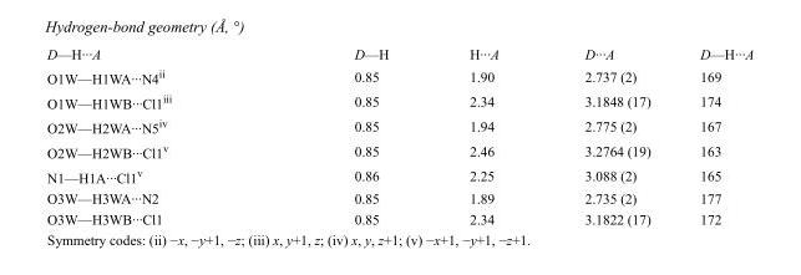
<table><tbody><tr><td>D—H···A</td><td>D—H</td><td>H···A</td><td>D···A</td><td>D—H···A</td></tr><tr><td>O1W—H1WA···N4<sup>ii</sup></td><td>0.85</td><td>1.90</td><td>2.737 (2)</td><td>169</td></tr><tr><td>O1W—H1WB···Cl1<sup>iii</sup></td><td>0.85</td><td>2.34</td><td>3.1848 (17)</td><td>174</td></tr><tr><td>O2W—H2WA···N5<sup>iv</sup></td><td>0.85</td><td>1.94</td><td>2.775 (2)</td><td>167</td></tr><tr><td>O2W—H2WB···Cl1<sup>v</sup></td><td>0.85</td><td>2.46</td><td>3.2764 (19)</td><td>163</td></tr><tr><td>N1—H1A···Cl1<sup>v</sup></td><td>0.86</td><td>2.25</td><td>3.088 (2)</td><td>165</td></tr><tr><td>O3W—H3WA···N2</td><td>0.85</td><td>1.89</td><td>2.735 (2)</td><td>177</td></tr><tr><td>O3W—H3WB···Cl1</td><td>0.85</td><td>2.34</td><td>3.1822 (17)</td><td>172</td></tr></tbody></table>